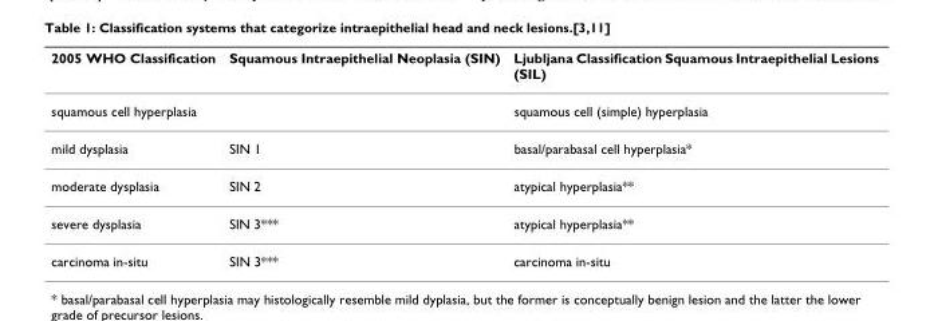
<table><thead><tr><td>2005 WHO Classification</td><td>Squamous Intraepithelial Neoplasia (SIN)</td><td>Ljubljana Classification Squamous Intraepithelial Lesions (SIL)</td></tr></thead><tbody><tr><td>squamous cell hyperplasia</td><td></td><td>squamous cell (simple) hyperplasia</td></tr><tr><td>mild dysplasia</td><td>SIN 1</td><td>basal/parabasal cell hyperplasia*</td></tr><tr><td>moderate dysplasia</td><td>SIN 2</td><td>atypical hyperplasia**</td></tr><tr><td>severe dysplasia</td><td>SIN 3***</td><td>atypical hyperplasia**</td></tr><tr><td>carcinoma in-situ</td><td>SIN 3***</td><td>carcinoma in-situ</td></tr></tbody></table>